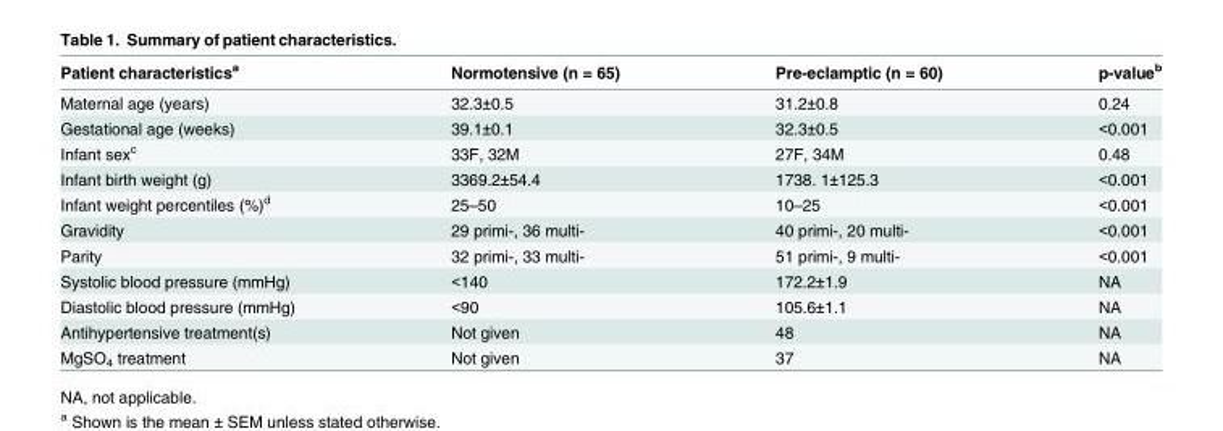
<table><thead><tr><td>Patient characteristics<sup>a</sup></td><td>Normotensive (n = 65)</td><td>Pre-eclamptic (n = 60)</td><td>p-value<sup>b</sup></td></tr></thead><tbody><tr><td>Maternal age (years)</td><td>32.3±0.5</td><td>31.2±0.8</td><td>0.24</td></tr><tr><td>Gestational age (weeks)</td><td>39.1±0.1</td><td>32.3±0.5</td><td>&lt;0.001</td></tr><tr><td>Infant sex<sup>c</sup></td><td>33F, 32M</td><td>27F, 34M</td><td>0.48</td></tr><tr><td>Infant birth weight (g)</td><td>3369.2±54.4</td><td>1738. 1±125.3</td><td>&lt;0.001</td></tr><tr><td>Infant weight percentiles (%)<sup>d</sup></td><td>25–50</td><td>10–25</td><td>&lt;0.001</td></tr><tr><td>Gravidity</td><td>29 primi-, 36 multi-</td><td>40 primi-, 20 multi-</td><td>&lt;0.001</td></tr><tr><td>Parity</td><td>32 primi-, 33 multi-</td><td>51 primi-, 9 multi-</td><td>&lt;0.001</td></tr><tr><td>Systolic blood pressure (mmHg)</td><td>&lt;140</td><td>172.2±1.9</td><td>NA</td></tr><tr><td>Diastolic blood pressure (mmHg)</td><td>&lt;90</td><td>105.6±1.1</td><td>NA</td></tr><tr><td>Antihypertensive treatment(s)</td><td>Not given</td><td>48</td><td>NA</td></tr><tr><td>MgSO<sub>4</sub> treatment</td><td>Not given</td><td>37</td><td>NA</td></tr></tbody></table>